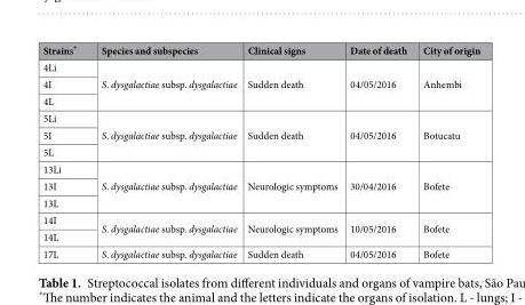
<table><thead><tr><td>Strains*</td><td>Species and subspecies</td><td>Clinical signs</td><td>Date of death</td><td>City of origin</td></tr></thead><tbody><tr><td>4Li</td><td rowspan="3">S. dysgalactiae subsp. dysgalactiae</td><td rowspan="3">Sudden death</td><td rowspan="3">04/05/2016</td><td rowspan="3">Anhembi</td></tr><tr><td>4I</td></tr><tr><td>4L</td></tr><tr><td>5Li</td><td rowspan="3">S. dysgalactiae subsp. dysgalactiae</td><td rowspan="3">Sudden death</td><td rowspan="3">04/05/2016</td><td rowspan="3">Botucatu</td></tr><tr><td>5I</td></tr><tr><td>5L</td></tr><tr><td>13Li</td><td rowspan="3">S. dysgalactiae subsp. dysgalactiae</td><td rowspan="3">Neurologic symptoms</td><td rowspan="3">30/04/2016</td><td rowspan="3">Bofete</td></tr><tr><td>13I</td></tr><tr><td>13L</td></tr><tr><td>14I</td><td rowspan="2">S. dysgalactiae subsp. dysgalactiae</td><td rowspan="2">Neurologic symptoms</td><td rowspan="2">10/05/2016</td><td rowspan="2">Bofete</td></tr><tr><td>14L</td></tr><tr><td>17L</td><td>S. dysgalactiae subsp. dysgalactiae</td><td>Sudden death</td><td>04/05/2016</td><td>Bofete</td></tr></tbody></table>